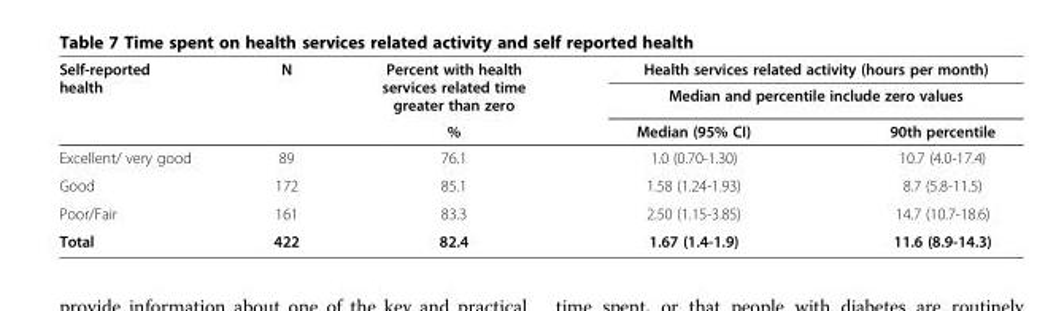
<table><thead><tr><td rowspan="3">Self-reported health</td><td rowspan="3">N</td><td rowspan="3">Percent with health services related time greater than zero %</td><td rowspan="2" colspan="2">Health services related activity (hours per month) Median and percentile include zero values</td></tr><tr></tr><tr><td>Median (95% CI)</td><td>90th percentile</td></tr></thead><tbody><tr><td>Excellent/ very good</td><td>89</td><td>76.1</td><td>1.0 (0.70-1.30)</td><td>10.7 (4.0-17.4)</td></tr><tr><td>Good</td><td>172</td><td>85.1</td><td>1.58 (1.24-1.93)</td><td>8.7 (5.8-11.5)</td></tr><tr><td>Poor/Fair</td><td>161</td><td>83.3</td><td>2.50 (1.15-3.85)</td><td>14.7 (10.7-18.6)</td></tr><tr><td>Total</td><td>422</td><td>82.4</td><td>1.67 (1.4-1.9)</td><td>11.6 (8.9-14.3)</td></tr></tbody></table>